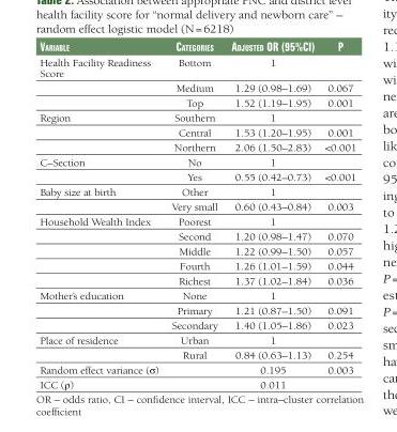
<table><thead><tr><td>varIable</td><td>categorIes</td><td>adjUsted or (95%cI)</td><td>P</td></tr></thead><tbody><tr><td rowspan="3">Health Facility Readiness Score</td><td>Bottom</td><td>1</td><td></td></tr><tr><td>Medium</td><td>1.29 (0.98–1.69)</td><td>0.067</td></tr><tr><td>Top</td><td>1.52 (1.19–1.95)</td><td>0.001</td></tr><tr><td rowspan="3">Region</td><td>Southern</td><td>1</td><td></td></tr><tr><td>Central</td><td>1.53 (1.20–1.95)</td><td>0.001</td></tr><tr><td>Northern</td><td>2.06 (1.50–2.83)</td><td>&lt;0.001</td></tr><tr><td rowspan="2">C–Section</td><td>No</td><td>1</td><td></td></tr><tr><td>Yes</td><td>0.55 (0.42–0.73)</td><td>&lt;0.001</td></tr><tr><td rowspan="2">Baby size at birth</td><td>Other</td><td>1</td><td></td></tr><tr><td>Very small</td><td>0.60 (0.43–0.84)</td><td>0.003</td></tr><tr><td rowspan="5">Household Wealth Index</td><td>Poorest</td><td>1</td><td></td></tr><tr><td>Second</td><td>1.20 (0.98–1.47)</td><td>0.070</td></tr><tr><td>Middle</td><td>1.22 (0.99–1.50)</td><td>0.057</td></tr><tr><td>Fourth</td><td>1.26 (1.01–1.59)</td><td>0.044</td></tr><tr><td>Richest</td><td>1.37 (1.02–1.84)</td><td>0.036</td></tr><tr><td rowspan="3">Mother’s education</td><td>None</td><td>1</td><td></td></tr><tr><td>Primary</td><td>1.21 (0.87–1.50)</td><td>0.091</td></tr><tr><td>Secondary</td><td>1.40 (1.05–1.86)</td><td>0.023</td></tr><tr><td rowspan="2">Place of residence</td><td>Urban</td><td>1</td><td></td></tr><tr><td>Rural</td><td>0.84 (0.63–1.13)</td><td>0.254</td></tr><tr><td>Random effect variance (σ)</td><td></td><td>0.195</td><td>0.003</td></tr><tr><td>ICC (ρ)</td><td></td><td>0.011</td><td></td></tr></tbody></table>